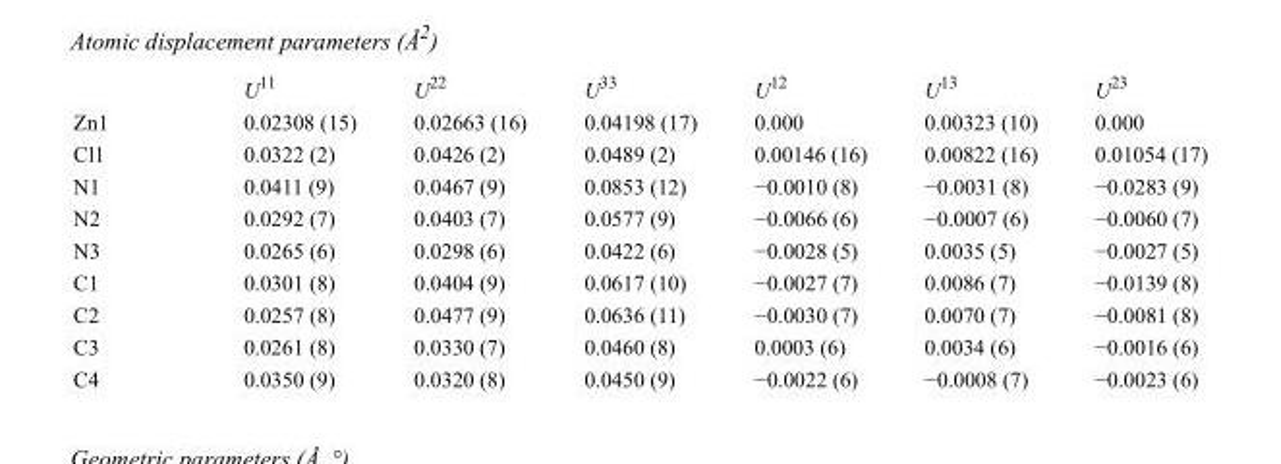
<table><thead><tr><td></td><td>U<sup>11</sup></td><td>U<sup>22</sup></td><td>U<sup>33</sup></td><td>U<sup>12</sup></td><td>U<sup>13</sup></td><td>U<sup>23</sup></td></tr></thead><tbody><tr><td>Zn1</td><td>0.02308 (15)</td><td>0.02663 (16)</td><td>0.04198 (17)</td><td>0.000</td><td>0.00323 (10)</td><td>0.000</td></tr><tr><td>Cl1</td><td>0.0322 (2)</td><td>0.0426 (2)</td><td>0.0489 (2)</td><td>0.00146 (16)</td><td>0.00822 (16)</td><td>0.01054 (17)</td></tr><tr><td>N1</td><td>0.0411 (9)</td><td>0.0467 (9)</td><td>0.0853 (12)</td><td>−0.0010 (8)</td><td>−0.0031 (8)</td><td>−0.0283 (9)</td></tr><tr><td>N2</td><td>0.0292 (7)</td><td>0.0403 (7)</td><td>0.0577 (9)</td><td>−0.0066 (6)</td><td>−0.0007 (6)</td><td>−0.0060 (7)</td></tr><tr><td>N3</td><td>0.0265 (6)</td><td>0.0298 (6)</td><td>0.0422 (6)</td><td>−0.0028 (5)</td><td>0.0035 (5)</td><td>−0.0027 (5)</td></tr><tr><td>C1</td><td>0.0301 (8)</td><td>0.0404 (9)</td><td>0.0617 (10)</td><td>−0.0027 (7)</td><td>0.0086 (7)</td><td>−0.0139 (8)</td></tr><tr><td>C2</td><td>0.0257 (8)</td><td>0.0477 (9)</td><td>0.0636 (11)</td><td>−0.0030 (7)</td><td>0.0070 (7)</td><td>−0.0081 (8)</td></tr><tr><td>C3</td><td>0.0261 (8)</td><td>0.0330 (7)</td><td>0.0460 (8)</td><td>0.0003 (6)</td><td>0.0034 (6)</td><td>−0.0016 (6)</td></tr><tr><td>C4</td><td>0.0350 (9)</td><td>0.0320 (8)</td><td>0.0450 (9)</td><td>−0.0022 (6)</td><td>−0.0008 (7)</td><td>−0.0023 (6)</td></tr></tbody></table>